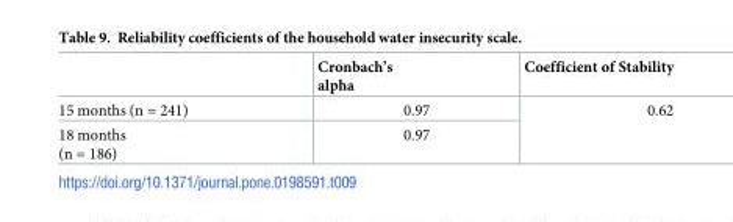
<table><thead><tr><td></td><td>Cronbach’s alpha</td><td>Coefficient of Stability</td></tr></thead><tbody><tr><td>15 months (n = 241)</td><td>0.97</td><td rowspan="2">0.62</td></tr><tr><td>18 months (n = 186)</td><td>0.97</td></tr></tbody></table>